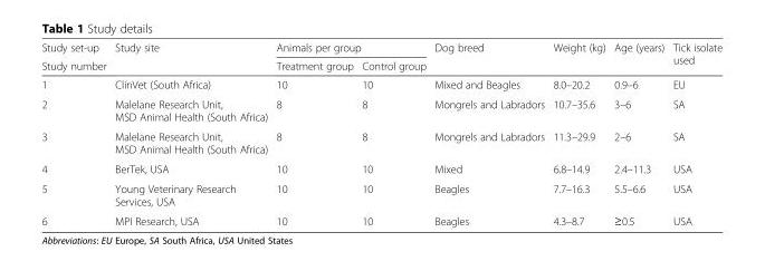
<table><thead><tr><td rowspan="2">Study set-up Study number</td><td rowspan="2">Study site</td><td colspan="2">Animals per group</td><td rowspan="2">Dog breed</td><td rowspan="2">Weight (kg)</td><td rowspan="2">Age (years)</td><td rowspan="2">Tick isolate used</td></tr><tr><td>Treatment group</td><td>Control group</td></tr></thead><tbody><tr><td>1</td><td>ClinVet (South Africa)</td><td>10</td><td>10</td><td>Mixed and Beagles</td><td>8.0–20.2</td><td>0.9–6</td><td>EU</td></tr><tr><td>2</td><td>Malelane Research Unit, MSD Animal Health (South Africa)</td><td>8</td><td>8</td><td>Mongrels and Labradors</td><td>10.7–35.6</td><td>3–6</td><td>SA</td></tr><tr><td>3</td><td>Malelane Research Unit, MSD Animal Health (South Africa)</td><td>8</td><td>8</td><td>Mongrels and Labradors</td><td>11.3–29.9</td><td>2–6</td><td>SA</td></tr><tr><td>4</td><td>BerTek, USA</td><td>10</td><td>10</td><td>Mixed</td><td>6.8–14.9</td><td>2.4–11.3</td><td>USA</td></tr><tr><td>5</td><td>Young Veterinary Research Services, USA</td><td>10</td><td>10</td><td>Beagles</td><td>7.7–16.3</td><td>5.5–6.6</td><td>USA</td></tr><tr><td>6</td><td>MPI Research, USA</td><td>10</td><td>10</td><td>Beagles</td><td>4.3–8.7</td><td>≥0.5</td><td>USA</td></tr></tbody></table>